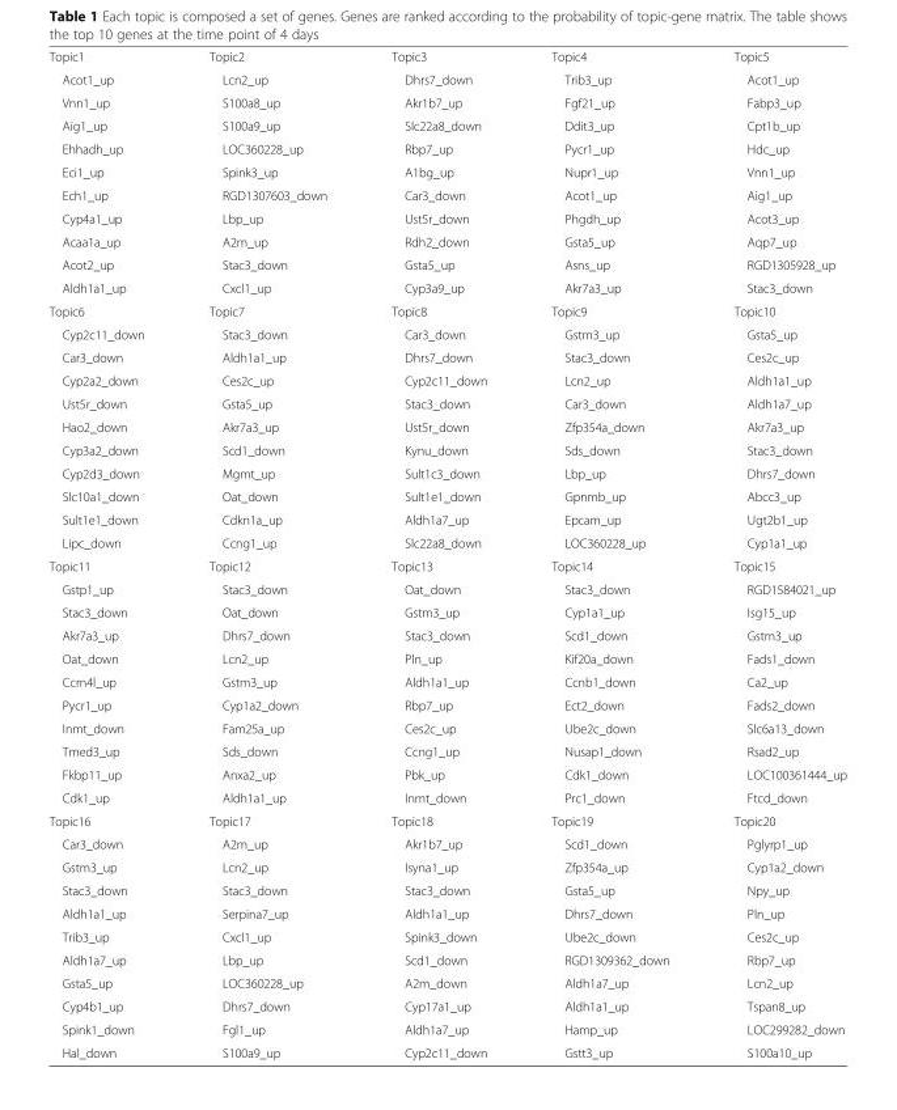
<table><tbody><tr><td>Topic1</td><td>Topic2</td><td>Topic3</td><td>Topic4</td><td>Topic5</td></tr><tr><td>Acot1_up</td><td>Lcn2_up</td><td>Dhrs7_down</td><td>Trib3_up</td><td>Acot1_up</td></tr><tr><td>Vnn1_up</td><td>S100a8_up</td><td>Akr1b7_up</td><td>Fgf21_up</td><td>Fabp3_up</td></tr><tr><td>Aig1_up</td><td>S100a9_up</td><td>Slc22a8_down</td><td>Ddit3_up</td><td>Cpt1b_up</td></tr><tr><td>Ehhadh_up</td><td>LOC360228_up</td><td>Rbp7_up</td><td>Pycr1_up</td><td>Hdc_up</td></tr><tr><td>Eci1_up</td><td>Spink3_up</td><td>A1bg_up</td><td>Nupr1_up</td><td>Vnn1_up</td></tr><tr><td>Ech1_up</td><td>RGD1307603_down</td><td>Car3_down</td><td>Acot1_up</td><td>Aig1_up</td></tr><tr><td>Cyp4a1_up</td><td>Lbp_up</td><td>Ust5r_down</td><td>Phgdh_up</td><td>Acot3_up</td></tr><tr><td>Acaa1a_up</td><td>A2m_up</td><td>Rdh2_down</td><td>Gsta5_up</td><td>Aqp7_up</td></tr><tr><td>Acot2_up</td><td>Stac3_down</td><td>Gsta5_up</td><td>Asns_up</td><td>RGD1305928_up</td></tr><tr><td>Aldh1a1_up</td><td>Cxcl1_up</td><td>Cyp3a9_up</td><td>Akr7a3_up</td><td>Stac3_down</td></tr><tr><td>Topic6</td><td>Topic7</td><td>Topic8</td><td>Topic9</td><td>Topic10</td></tr><tr><td>Cyp2c11_down</td><td>Stac3_down</td><td>Car3_down</td><td>Gstm3_up</td><td>Gsta5_up</td></tr><tr><td>Car3_down</td><td>Aldh1a1_up</td><td>Dhrs7_down</td><td>Stac3_down</td><td>Ces2c_up</td></tr><tr><td>Cyp2a2_down</td><td>Ces2c_up</td><td>Cyp2c11_down</td><td>Lcn2_up</td><td>Aldh1a1_up</td></tr><tr><td>Ust5r_down</td><td>Gsta5_up</td><td>Stac3_down</td><td>Car3_down</td><td>Aldh1a7_up</td></tr><tr><td>Hao2_down</td><td>Akr7a3_up</td><td>Ust5r_down</td><td>Zfp354a_down</td><td>Akr7a3_up</td></tr><tr><td>Cyp3a2_down</td><td>Scd1_down</td><td>Kynu_down</td><td>Sds_down</td><td>Stac3_down</td></tr><tr><td>Cyp2d3_down</td><td>Mgmt_up</td><td>Sult1c3_down</td><td>Lbp_up</td><td>Dhrs7_down</td></tr><tr><td>Slc10a1_down</td><td>Oat_down</td><td>Sult1e1_down</td><td>Gpnmb_up</td><td>Abcc3_up</td></tr><tr><td>Sult1e1_down</td><td>Cdkn1a_up</td><td>Aldh1a7_up</td><td>Epcam_up</td><td>Ugt2b1_up</td></tr><tr><td>Lipc_down</td><td>Ccng1_up</td><td>Slc22a8_down</td><td>LOC360228_up</td><td>Cyp1a1_up</td></tr><tr><td>Topic11</td><td>Topic12</td><td>Topic13</td><td>Topic14</td><td>Topic15</td></tr><tr><td>Gstp1_up</td><td>Stac3_down</td><td>Oat_down</td><td>Stac3_down</td><td>RGD1584021_up</td></tr><tr><td>Stac3_down</td><td>Oat_down</td><td>Gstm3_up</td><td>Cyp1a1_up</td><td>Isg15_up</td></tr><tr><td>Akr7a3_up</td><td>Dhrs7_down</td><td>Stac3_down</td><td>Scd1_down</td><td>Gstm3_up</td></tr><tr><td>Oat_down</td><td>Lcn2_up</td><td>Pln_up</td><td>Kif20a_down</td><td>Fads1_down</td></tr><tr><td>Ccrn4l_up</td><td>Gstm3_up</td><td>Aldh1a1_up</td><td>Ccnb1_down</td><td>Ca2_up</td></tr><tr><td>Pycr1_up</td><td>Cyp1a2_down</td><td>Rbp7_up</td><td>Ect2_down</td><td>Fads2_down</td></tr><tr><td>Inmt_down</td><td>Fam25a_up</td><td>Ces2c_up</td><td>Ube2c_down</td><td>Slc6a13_down</td></tr><tr><td>Tmed3_up</td><td>Sds_down</td><td>Ccng1_up</td><td>Nusap1_down</td><td>Rsad2_up</td></tr><tr><td>Fkbp11_up</td><td>Anxa2_up</td><td>Pbk_up</td><td>Cdk1_down</td><td>LOC100361444_up</td></tr><tr><td>Cdk1_up</td><td>Aldh1a1_up</td><td>Inmt_down</td><td>Prc1_down</td><td>Ftcd_down</td></tr><tr><td>Topic16</td><td>Topic17</td><td>Topic18</td><td>Topic19</td><td>Topic20</td></tr><tr><td>Car3_down</td><td>A2m_up</td><td>Akr1b7_up</td><td>Scd1_down</td><td>Pglyrp1_up</td></tr><tr><td>Gstm3_up</td><td>Lcn2_up</td><td>Isyna1_up</td><td>Zfp354a_up</td><td>Cyp1a2_down</td></tr><tr><td>Stac3_down</td><td>Stac3_down</td><td>Stac3_down</td><td>Gsta5_up</td><td>Npy_up</td></tr><tr><td>Aldh1a1_up</td><td>Serpina7_up</td><td>Aldh1a1_up</td><td>Dhrs7_down</td><td>Pln_up</td></tr><tr><td>Trib3_up</td><td>Cxcl1_up</td><td>Spink3_down</td><td>Ube2c_down</td><td>Ces2c_up</td></tr><tr><td>Aldh1a7_up</td><td>Lbp_up</td><td>Scd1_down</td><td>RGD1309362_down</td><td>Rbp7_up</td></tr><tr><td>Gsta5_up</td><td>LOC360228_up</td><td>A2m_down</td><td>Aldh1a7_up</td><td>Lcn2_up</td></tr><tr><td>Cyp4b1_up</td><td>Dhrs7_down</td><td>Cyp17a1_up</td><td>Aldh1a1_up</td><td>Tspan8_up</td></tr><tr><td>Spink1_down</td><td>Fgl1_up</td><td>Aldh1a7_up</td><td>Hamp_up</td><td>LOC299282_down</td></tr><tr><td>Hal_down</td><td>S100a9_up</td><td>Cyp2c11_down</td><td>Gstt3_up</td><td>S100a10_up</td></tr></tbody></table>